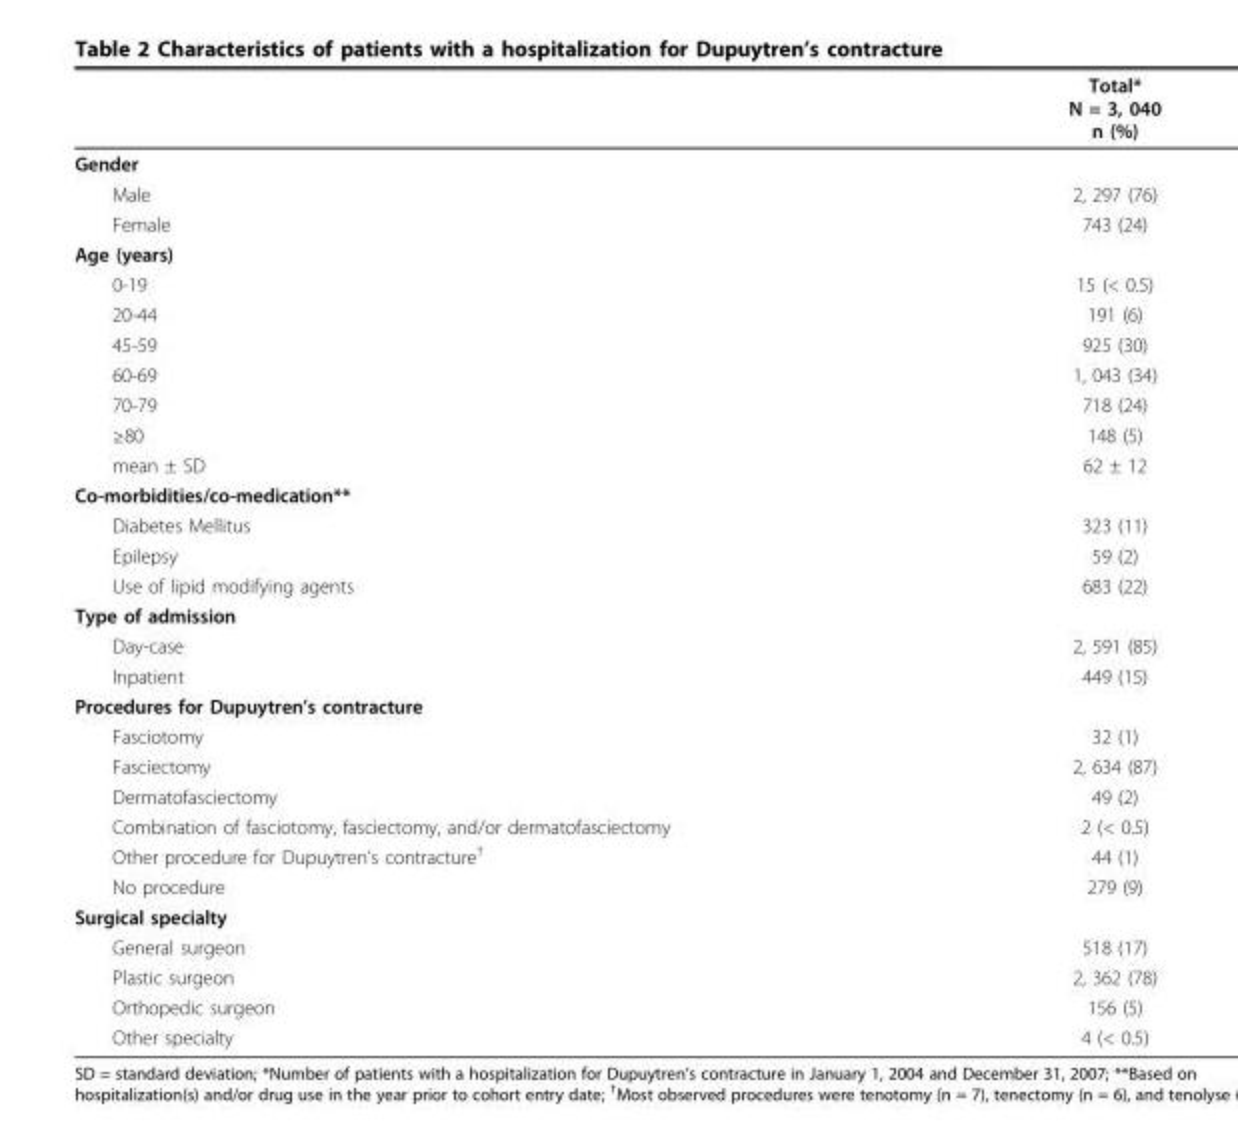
<table><thead><tr><td></td><td>Total* N = 3, 040 n (%)</td></tr></thead><tbody><tr><td colspan="2">Gender</td></tr><tr><td>Male</td><td>2, 297 (76)</td></tr><tr><td>Female</td><td>743 (24)</td></tr><tr><td colspan="2">Age (years)</td></tr><tr><td>0-19</td><td>15 (&lt; 0.5)</td></tr><tr><td>20-44</td><td>191 (6)</td></tr><tr><td>45-59</td><td>925 (30)</td></tr><tr><td>60-69</td><td>1, 043 (34)</td></tr><tr><td>70-79</td><td>718 (24)</td></tr><tr><td>≥80</td><td>148 (5)</td></tr><tr><td>mean ± SD</td><td>62 ± 12</td></tr><tr><td colspan="2">Co-morbidities/co-medication**</td></tr><tr><td>Diabetes Mellitus</td><td>323 (11)</td></tr><tr><td>Epilepsy</td><td>59 (2)</td></tr><tr><td>Use of lipid modifying agents</td><td>683 (22)</td></tr><tr><td colspan="2">Type of admission</td></tr><tr><td>Day-case</td><td>2, 591 (85)</td></tr><tr><td>Inpatient</td><td>449 (15)</td></tr><tr><td colspan="2">Procedures for Dupuytren’s contracture</td></tr><tr><td>Fasciotomy</td><td>32 (1)</td></tr><tr><td>Fasciectomy</td><td>2, 634 (87)</td></tr><tr><td>Dermatofasciectomy</td><td>49 (2)</td></tr><tr><td>Combination of fasciotomy, fasciectomy, and/or dermatofasciectomy</td><td>2 (&lt; 0.5)</td></tr><tr><td>Other procedure for Dupuytren’s contracture<sup>†</sup></td><td>44 (1)</td></tr><tr><td>No procedure</td><td>279 (9)</td></tr><tr><td colspan="2">Surgical specialty</td></tr><tr><td>General surgeon</td><td>518 (17)</td></tr><tr><td>Plastic surgeon</td><td>2, 362 (78)</td></tr><tr><td>Orthopedic surgeon</td><td>156 (5)</td></tr><tr><td>Other specialty</td><td>4 (&lt; 0.5)</td></tr></tbody></table>